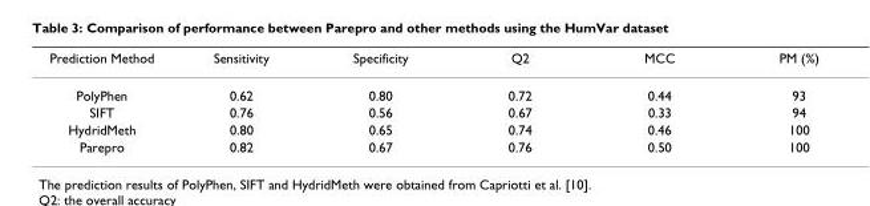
<table><thead><tr><td>Prediction Method</td><td>Sensitivity</td><td>Specificity</td><td>Q2</td><td>MCC</td><td>PM (%)</td></tr></thead><tbody><tr><td>PolyPhen</td><td>0.62</td><td>0.80</td><td>0.72</td><td>0.44</td><td>93</td></tr><tr><td>SIFT</td><td>0.76</td><td>0.56</td><td>0.67</td><td>0.33</td><td>94</td></tr><tr><td>HydridMeth</td><td>0.80</td><td>0.65</td><td>0.74</td><td>0.46</td><td>100</td></tr><tr><td>Parepro</td><td>0.82</td><td>0.67</td><td>0.76</td><td>0.50</td><td>100</td></tr></tbody></table>